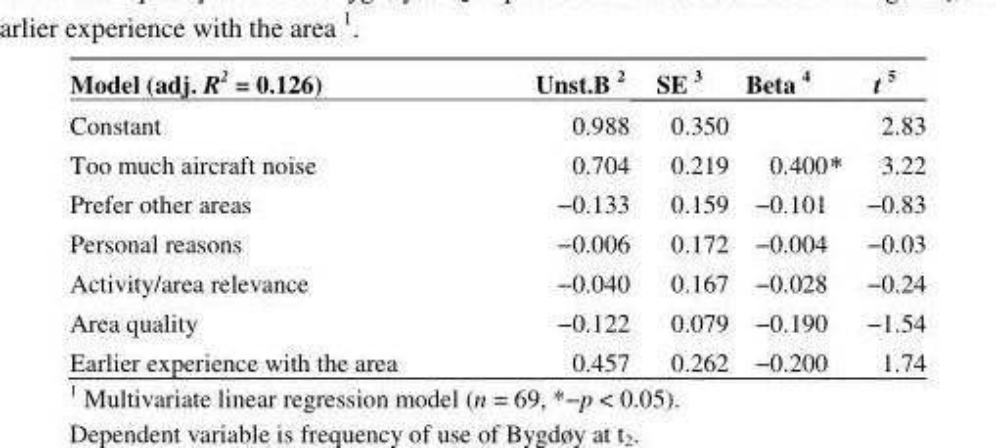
<table><thead><tr><td>Model (adj. R2 = 0.126)</td><td>Unst.B 2</td><td>SE 3</td><td>Beta 4</td><td>t <sup>5</sup></td></tr></thead><tbody><tr><td>Constant</td><td>0.988</td><td>0.350</td><td></td><td>2.83</td></tr><tr><td>Too much aircraft noise</td><td>0.704</td><td>0.219</td><td>0.400*</td><td>3.22</td></tr><tr><td>Prefer other areas</td><td>−0.133</td><td>0.159</td><td>−0.101</td><td>−0.83</td></tr><tr><td>Personal reasons</td><td>−0.006</td><td>0.172</td><td>−0.004</td><td>−0.03</td></tr><tr><td>Activity/area relevance</td><td>−0.040</td><td>0.167</td><td>−0.028</td><td>−0.24</td></tr><tr><td>Area quality</td><td>−0.122</td><td>0.079</td><td>−0.190</td><td>−1.54</td></tr><tr><td>Earlier experience with the area</td><td>0.457</td><td>0.262</td><td>−0.200</td><td>1.74</td></tr></tbody></table>